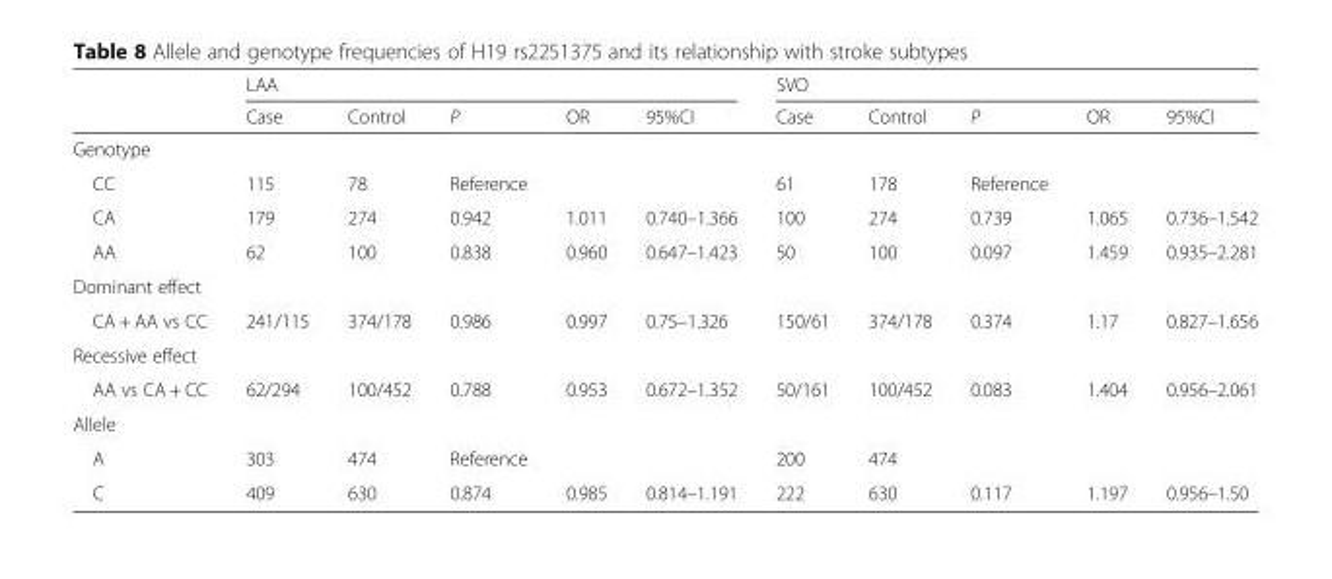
<table><thead><tr><td rowspan="2"></td><td colspan="5">LAA</td><td colspan="5">SVO</td></tr><tr><td>Case</td><td>Control</td><td>P</td><td>OR</td><td>95%CI</td><td>Case</td><td>Control</td><td>P</td><td>OR</td><td>95%CI</td></tr></thead><tbody><tr><td colspan="11">Genotype</td></tr><tr><td>CC</td><td>115</td><td>78</td><td>Reference</td><td></td><td></td><td>61</td><td>178</td><td>Reference</td><td></td><td></td></tr><tr><td>CA</td><td>179</td><td>274</td><td>0.942</td><td>1.011</td><td>0.740–1.366</td><td>100</td><td>274</td><td>0.739</td><td>1.065</td><td>0.736–1.542</td></tr><tr><td>AA</td><td>62</td><td>100</td><td>0.838</td><td>0.960</td><td>0.647–1.423</td><td>50</td><td>100</td><td>0.097</td><td>1.459</td><td>0.935–2.281</td></tr><tr><td colspan="11">Dominant effect</td></tr><tr><td>CA + AA vs CC</td><td>241/115</td><td>374/178</td><td>0.986</td><td>0.997</td><td>0.75–1.326</td><td>150/61</td><td>374/178</td><td>0.374</td><td>1.17</td><td>0.827–1.656</td></tr><tr><td colspan="11">Recessive effect</td></tr><tr><td>AA vs CA + CC</td><td>62/294</td><td>100/452</td><td>0.788</td><td>0.953</td><td>0.672–1.352</td><td>50/161</td><td>100/452</td><td>0.083</td><td>1.404</td><td>0.956–2.061</td></tr><tr><td colspan="11">Allele</td></tr><tr><td>A</td><td>303</td><td>474</td><td>Reference</td><td></td><td></td><td>200</td><td>474</td><td></td><td></td><td></td></tr><tr><td>C</td><td>409</td><td>630</td><td>0.874</td><td>0.985</td><td>0.814–1.191</td><td>222</td><td>630</td><td>0.117</td><td>1.197</td><td>0.956–1.50</td></tr></tbody></table>